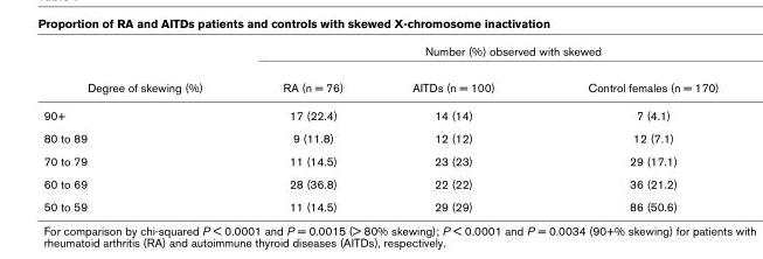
<table><thead><tr><td rowspan="2">Degree of skewing (%)</td><td colspan="3">Number (%) observed with skewed</td></tr><tr><td>RA (n = 76)</td><td>AITDs (n = 100)</td><td>Control females (n = 170)</td></tr></thead><tbody><tr><td>90+</td><td>17 (22.4)</td><td>14 (14)</td><td>7 (4.1)</td></tr><tr><td>80 to 89</td><td>9 (11.8)</td><td>12 (12)</td><td>12 (7.1)</td></tr><tr><td>70 to 79</td><td>11 (14.5)</td><td>23 (23)</td><td>29 (17.1)</td></tr><tr><td>60 to 69</td><td>28 (36.8)</td><td>22 (22)</td><td>36 (21.2)</td></tr><tr><td>50 to 59</td><td>11 (14.5)</td><td>29 (29)</td><td>86 (50.6)</td></tr></tbody></table>